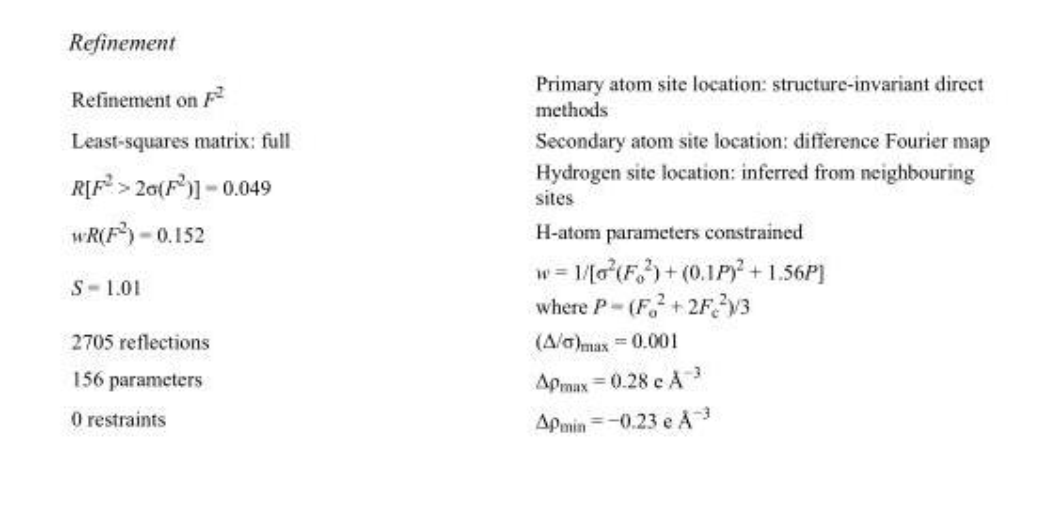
<table><tbody><tr><td>Refinement on F<sup>2</sup></td><td>Primary atom site location: structure-invariant direct methods</td></tr><tr><td>Least-squares matrix: full</td><td>Secondary atom site location: difference Fourier map</td></tr><tr><td>R[F<sup>2</sup> &gt; 2σ(F<sup>2</sup>)] = 0.049</td><td>Hydrogen site location: inferred from neighbouring sites</td></tr><tr><td>wR(F<sup>2</sup>) = 0.152</td><td>H-atom parameters constrained</td></tr><tr><td>S = 1.01</td><td>w = 1/[σ<sup>2</sup>(F<sub>o</sub> <sup>2</sup>) + (0.1P)<sup>2</sup> + 1.56P] where P = (F<sub>o</sub> <sup>2</sup> + 2F<sub>c</sub> <sup>2</sup>)/3</td></tr><tr><td>2705 reflections</td><td>(Δ/σ)<sub>max</sub> = 0.001</td></tr><tr><td>156 parameters</td><td>Δρ<sub>max</sub> = 0.28 e Å<sup>−3</sup></td></tr><tr><td>0 restraints</td><td>Δρ<sub>min</sub> = −0.23 e Å<sup>−3</sup></td></tr></tbody></table>